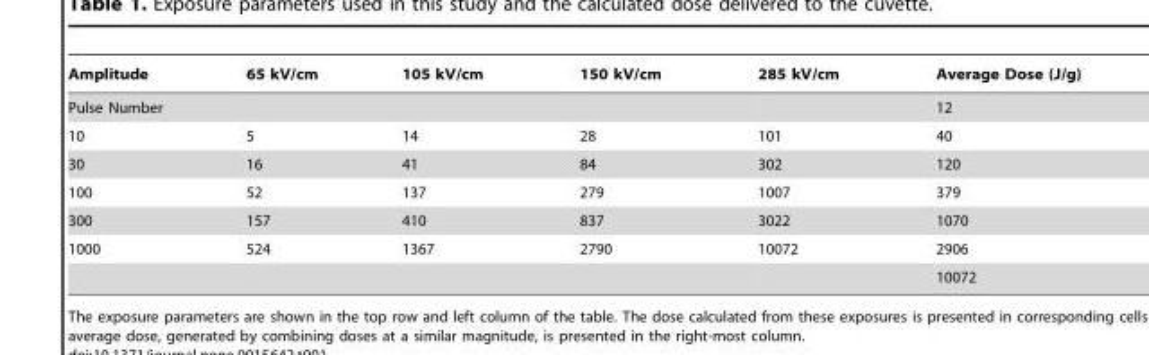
<table><thead><tr><td>Amplitude</td><td>65 kV/cm</td><td>105 kV/cm</td><td>150 kV/cm</td><td>285 kV/cm</td><td>Average Dose (J/g)</td></tr></thead><tbody><tr><td>Pulse Number</td><td></td><td></td><td></td><td></td><td>12</td></tr><tr><td>10</td><td>5</td><td>14</td><td>28</td><td>101</td><td>40</td></tr><tr><td>30</td><td>16</td><td>41</td><td>84</td><td>302</td><td>120</td></tr><tr><td>100</td><td>52</td><td>137</td><td>279</td><td>1007</td><td>379</td></tr><tr><td>300</td><td>157</td><td>410</td><td>837</td><td>3022</td><td>1070</td></tr><tr><td rowspan="2">1000</td><td>524</td><td>1367</td><td>2790</td><td>10072</td><td>2906</td></tr><tr><td></td><td></td><td></td><td></td><td>10072</td></tr></tbody></table>